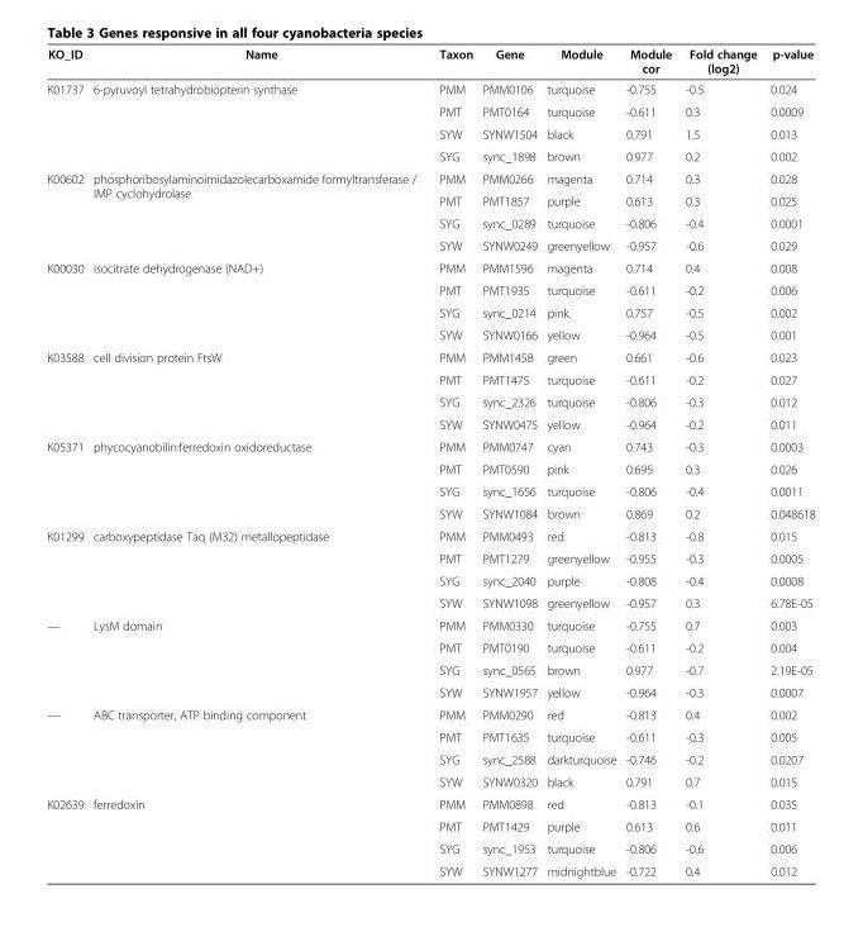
<table><thead><tr><td>KO_ID</td><td>Name</td><td>Taxon</td><td>Gene</td><td>Module</td><td>Module cor</td><td>Fold change (log2)</td><td>p-value</td></tr></thead><tbody><tr><td rowspan="4">K01737</td><td rowspan="4">6-pyruvoyl tetrahydrobiopterin synthase</td><td>PMM</td><td>PMM0106</td><td>turquoise</td><td>-0.755</td><td>-0.5</td><td>0.024</td></tr><tr><td>PMT</td><td>PMT0164</td><td>turquoise</td><td>-0.611</td><td>0.3</td><td>0.0009</td></tr><tr><td>SYW</td><td>SYNW1504</td><td>black</td><td>0.791</td><td>1.5</td><td>0.013</td></tr><tr><td>SYG</td><td>sync_1898</td><td>brown</td><td>0.977</td><td>0.2</td><td>0.002</td></tr><tr><td rowspan="4">K00602</td><td rowspan="4">phosphoribosylaminoimidazolecarboxamide formyltransferase / IMP cyclohydrolase</td><td>PMM</td><td>PMM0266</td><td>magenta</td><td>0.714</td><td>0.3</td><td>0.028</td></tr><tr><td>PMT</td><td>PMT1857</td><td>purple</td><td>0.613</td><td>0.3</td><td>0.025</td></tr><tr><td>SYG</td><td>sync_0289</td><td>turquoise</td><td>-0.806</td><td>-0.4</td><td>0.0001</td></tr><tr><td>SYW</td><td>SYNW0249</td><td>greenyellow</td><td>-0.957</td><td>-0.6</td><td>0.029</td></tr><tr><td rowspan="4">K00030</td><td rowspan="4">isocitrate dehydrogenase (NAD+)</td><td>PMM</td><td>PMM1596</td><td>magenta</td><td>0.714</td><td>0.4</td><td>0.008</td></tr><tr><td>PMT</td><td>PMT1935</td><td>turquoise</td><td>-0.611</td><td>-0.2</td><td>0.006</td></tr><tr><td>SYG</td><td>sync_0214</td><td>pink</td><td>0.757</td><td>-0.5</td><td>0.002</td></tr><tr><td>SYW</td><td>SYNW0166</td><td>yellow</td><td>-0.964</td><td>-0.5</td><td>0.001</td></tr><tr><td rowspan="4">K03588</td><td rowspan="4">cell division protein FtsW</td><td>PMM</td><td>PMM1458</td><td>green</td><td>0.661</td><td>-0.6</td><td>0.023</td></tr><tr><td>PMT</td><td>PMT1475</td><td>turquoise</td><td>-0.611</td><td>-0.2</td><td>0.027</td></tr><tr><td>SYG</td><td>sync_2326</td><td>turquoise</td><td>-0.806</td><td>-0.3</td><td>0.012</td></tr><tr><td>SYW</td><td>SYNW0475</td><td>yellow</td><td>-0.964</td><td>-0.2</td><td>0.011</td></tr><tr><td rowspan="4">K05371</td><td rowspan="4">phycocyanobilin:ferredoxin oxidoreductase</td><td>PMM</td><td>PMM0747</td><td>cyan</td><td>0.743</td><td>-0.3</td><td>0.0003</td></tr><tr><td>PMT</td><td>PMT0590</td><td>pink</td><td>0.695</td><td>0.3</td><td>0.026</td></tr><tr><td>SYG</td><td>sync_1656</td><td>turquoise</td><td>-0.806</td><td>-0.4</td><td>0.0011</td></tr><tr><td>SYW</td><td>SYNW1084</td><td>brown</td><td>0.869</td><td>0.2</td><td>0.048618</td></tr><tr><td rowspan="4">K01299</td><td rowspan="4">carboxypeptidase Taq (M32) metallopeptidase</td><td>PMM</td><td>PMM0493</td><td>red</td><td>-0.813</td><td>-0.8</td><td>0.015</td></tr><tr><td>PMT</td><td>PMT1279</td><td>greenyellow</td><td>-0.955</td><td>-0.3</td><td>0.0005</td></tr><tr><td>SYG</td><td>sync_2040</td><td>purple</td><td>-0.808</td><td>-0.4</td><td>0.0008</td></tr><tr><td>SYW</td><td>SYNW1098</td><td>greenyellow</td><td>-0.957</td><td>0.3</td><td>6.78E-05</td></tr><tr><td rowspan="4">—</td><td rowspan="4">LysM domain</td><td>PMM</td><td>PMM0330</td><td>turquoise</td><td>-0.755</td><td>0.7</td><td>0.003</td></tr><tr><td>PMT</td><td>PMT0190</td><td>turquoise</td><td>-0.611</td><td>-0.2</td><td>0.004</td></tr><tr><td>SYG</td><td>sync_0565</td><td>brown</td><td>0.977</td><td>-0.7</td><td>2.19E-05</td></tr><tr><td>SYW</td><td>SYNW1957</td><td>yellow</td><td>-0.964</td><td>-0.3</td><td>0.0007</td></tr><tr><td rowspan="4">—</td><td rowspan="4">ABC transporter, ATP binding component</td><td>PMM</td><td>PMM0290</td><td>red</td><td>-0.813</td><td>0.4</td><td>0.002</td></tr><tr><td>PMT</td><td>PMT1635</td><td>turquoise</td><td>-0.611</td><td>-0.3</td><td>0.005</td></tr><tr><td>SYG</td><td>sync_2588</td><td>darkturquoise</td><td>-0.746</td><td>-0.2</td><td>0.0207</td></tr><tr><td>SYW</td><td>SYNW0320</td><td>black</td><td>0.791</td><td>0.7</td><td>0.015</td></tr><tr><td rowspan="4">K02639</td><td>ferredoxin</td><td>PMM</td><td>PMM0898</td><td>red</td><td>-0.813</td><td>-0.1</td><td>0.035</td></tr><tr><td></td><td>PMT</td><td>PMT1429</td><td>purple</td><td>0.613</td><td>0.6</td><td>0.011</td></tr><tr><td></td><td>SYG</td><td>sync_1953</td><td>turquoise</td><td>-0.806</td><td>-0.6</td><td>0.006</td></tr><tr><td></td><td>SYW</td><td>SYNW1277</td><td>midnightblue</td><td>-0.722</td><td>0.4</td><td>0.012</td></tr></tbody></table>